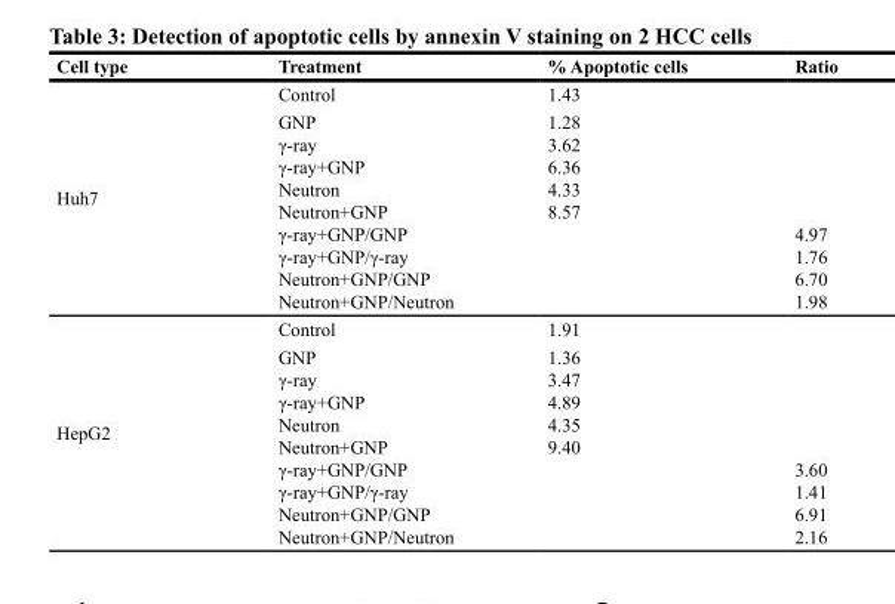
<table><thead><tr><td>Cell type</td><td>Treatment</td><td>% Apoptotic cells</td><td>Ratio</td></tr></thead><tbody><tr><td>Huh7</td><td>Control GNP γ-ray γ-ray+GNP Neutron Neutron+GNP γ-ray+GNP/GNP γ-ray+GNP/γ-ray Neutron+GNP/GNP Neutron+GNP/Neutron</td><td>1.43 1.28 3.62 6.36 4.33 8.57</td><td>4.97 1.76 6.70 1.98</td></tr><tr><td>HepG2</td><td>Control GNP γ-ray γ-ray+GNP Neutron Neutron+GNP γ-ray+GNP/GNP γ-ray+GNP/γ-ray Neutron+GNP/GNP Neutron+GNP/Neutron</td><td>1.91 1.36 3.47 4.89 4.35 9.40</td><td>3.60 1.41 6.91 2.16</td></tr></tbody></table>